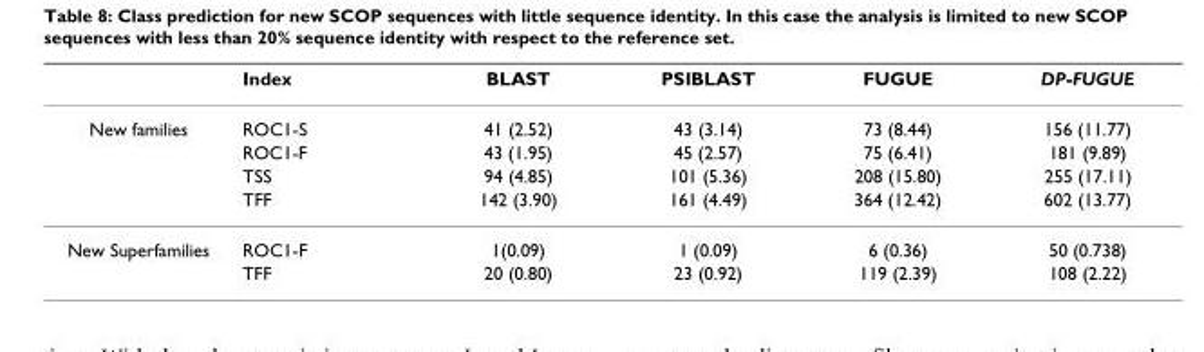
<table><thead><tr><td></td><td>Index</td><td>BLAST</td><td>PSIBLAST</td><td>FUGUE</td><td>DP-FUGUE</td></tr></thead><tbody><tr><td rowspan="4">New families</td><td>ROC1-S</td><td>41 (2.52)</td><td>43 (3.14)</td><td>73 (8.44)</td><td>156 (11.77)</td></tr><tr><td>ROC1-F</td><td>43 (1.95)</td><td>45 (2.57)</td><td>75 (6.41)</td><td>181 (9.89)</td></tr><tr><td>TSS</td><td>94 (4.85)</td><td>101 (5.36)</td><td>208 (15.80)</td><td>255 (17.11)</td></tr><tr><td>TFF</td><td>142 (3.90)</td><td>161 (4.49)</td><td>364 (12.42)</td><td>602 (13.77)</td></tr><tr><td rowspan="2">New Superfamilies</td><td>ROC1-F</td><td>1(0.09)</td><td>1 (0.09)</td><td>6 (0.36)</td><td>50 (0.738)</td></tr><tr><td>TFF</td><td>20 (0.80)</td><td>23 (0.92)</td><td>119 (2.39)</td><td>108 (2.22)</td></tr></tbody></table>